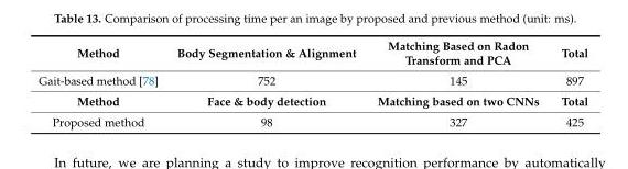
<table><tbody><tr><td>Method</td><td>Body Segmentation &amp; Alignment</td><td>Matching Based on Radon Transform and PCA</td><td>Total</td></tr><tr><td>Gait-based method [78]</td><td>752</td><td>145</td><td>897</td></tr><tr><td>Method</td><td>Face &amp; body detection</td><td>Matching based on two CNNs</td><td>Total</td></tr><tr><td>Proposed method</td><td>98</td><td>327</td><td>425</td></tr></tbody></table>